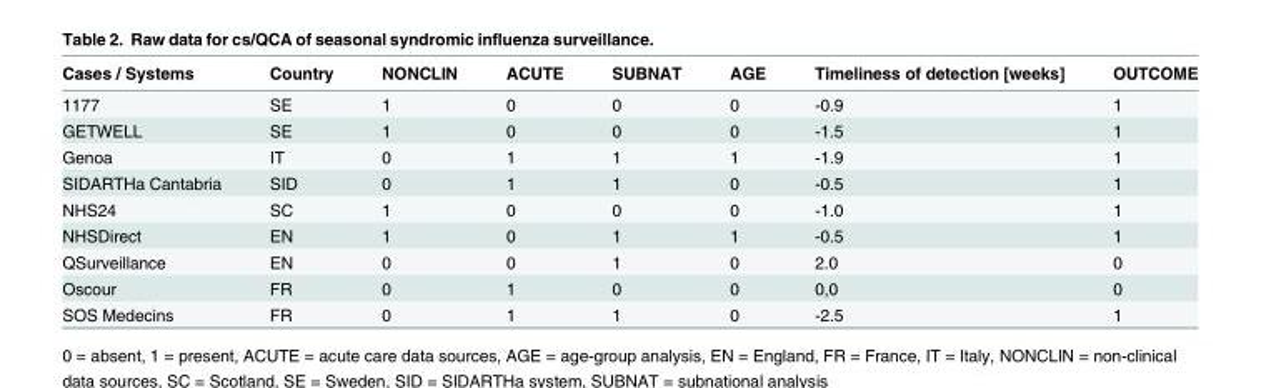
<table><thead><tr><td>Cases / Systems</td><td>Country</td><td>NONCLIN</td><td>ACUTE</td><td>SUBNAT</td><td>AGE</td><td>Timeliness of detection [weeks]</td><td>OUTCOME</td></tr></thead><tbody><tr><td>1177</td><td>SE</td><td>1</td><td>0</td><td>0</td><td>0</td><td>-0.9</td><td>1</td></tr><tr><td>GETWELL</td><td>SE</td><td>1</td><td>0</td><td>0</td><td>0</td><td>-1.5</td><td>1</td></tr><tr><td>Genoa</td><td>IT</td><td>0</td><td>1</td><td>1</td><td>1</td><td>-1.9</td><td>1</td></tr><tr><td>SIDARTHa Cantabria</td><td>SID</td><td>0</td><td>1</td><td>1</td><td>0</td><td>-0.5</td><td>1</td></tr><tr><td>NHS24</td><td>SC</td><td>1</td><td>0</td><td>0</td><td>0</td><td>-1.0</td><td>1</td></tr><tr><td>NHSDirect</td><td>EN</td><td>1</td><td>0</td><td>1</td><td>1</td><td>-0.5</td><td>1</td></tr><tr><td>QSurveillance</td><td>EN</td><td>0</td><td>0</td><td>1</td><td>0</td><td>2.0</td><td>0</td></tr><tr><td>Oscour</td><td>FR</td><td>0</td><td>1</td><td>0</td><td>0</td><td>0,0</td><td>0</td></tr><tr><td>SOS Medecins</td><td>FR</td><td>0</td><td>1</td><td>1</td><td>0</td><td>-2.5</td><td>1</td></tr></tbody></table>